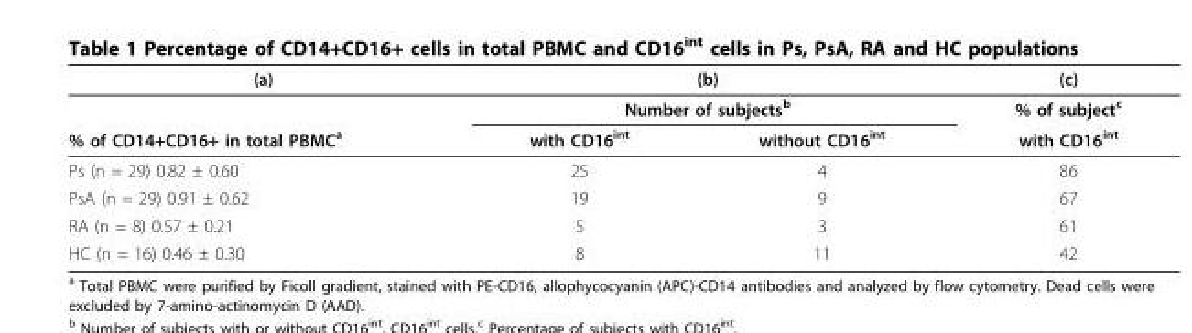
<table><thead><tr><td rowspan="3">(a) % of CD14+CD16+ in total PBMCa</td><td rowspan="2" colspan="2">(b) Number of subjectsb</td><td rowspan="3">(c) % of subjectc with CD16int</td></tr><tr></tr><tr><td>with CD16int</td><td>without CD16int</td></tr></thead><tbody><tr><td>Ps (n = 29) 0.82 ± 0.60</td><td>25</td><td>4</td><td>86</td></tr><tr><td>PsA (n = 29) 0.91 ± 0.62</td><td>19</td><td>9</td><td>67</td></tr><tr><td>RA (n = 8) 0.57 ± 0.21</td><td>5</td><td>3</td><td>61</td></tr><tr><td>HC (n = 16) 0.46 ± 0.30</td><td>8</td><td>11</td><td>42</td></tr></tbody></table>